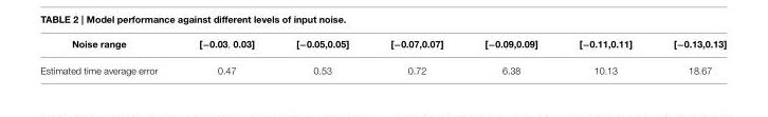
<table><thead><tr><td>Noise range</td><td>[−0.03, 0.03]</td><td>[−0.05,0.05]</td><td>[−0.07,0.07]</td><td>[−0.09,0.09]</td><td>[−0.11,0.11]</td><td>[−0.13,0.13]</td></tr></thead><tbody><tr><td>Estimated time average error</td><td>0.47</td><td>0.53</td><td>0.72</td><td>6.38</td><td>10.13</td><td>18.67</td></tr></tbody></table>